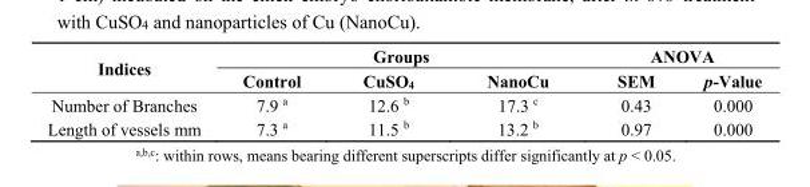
<table><thead><tr><td rowspan="2">Indices</td><td colspan="3">Groups</td><td colspan="2">ANOVA</td></tr><tr><td>Control</td><td>CuSO<sub>4</sub></td><td>NanoCu</td><td>SEM</td><td>p-Value</td></tr></thead><tbody><tr><td>Number of Branches</td><td>7.9 <sup>a</sup></td><td>12.6 <sup>b</sup></td><td>17.3 <sup>c</sup></td><td>0.43</td><td>0.000</td></tr><tr><td>Length of vessels mm</td><td>7.3 <sup>a</sup></td><td>11.5 <sup>b</sup></td><td>13.2 <sup>b</sup></td><td>0.97</td><td>0.000</td></tr></tbody></table>